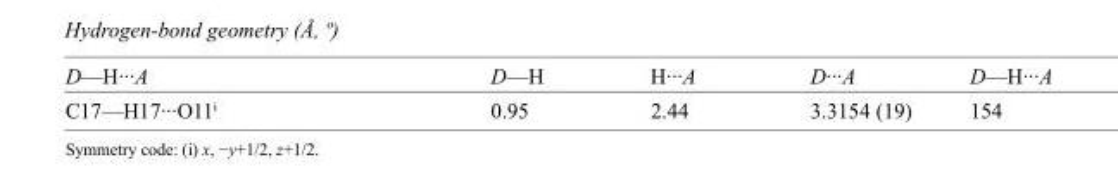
<table><tbody><tr><td>D—H···A</td><td>D—H</td><td>H···A</td><td>D···A</td><td>D—H···A</td></tr><tr><td>C17—H17···O11<sup>i</sup></td><td>0.95</td><td>2.44</td><td>3.3154 (19)</td><td>154</td></tr></tbody></table>